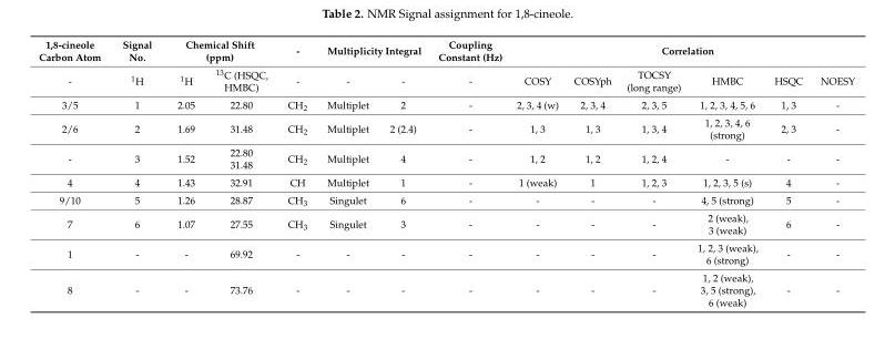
<table><thead><tr><td rowspan="2">1,8-cineole Carbon Atom -</td><td rowspan="2">Signal No. <sup>1</sup>H</td><td colspan="2">Chemical Shift (ppm)</td><td rowspan="2">- -</td><td rowspan="2">Multiplicity -</td><td rowspan="2">Integral -</td><td rowspan="2">Coupling Constant (Hz) -</td><td colspan="6">Correlation</td></tr><tr><td><sup>1</sup>H</td><td><sup>13</sup>C (HSQC, HMBC)</td><td>COSY</td><td>COSYph</td><td>TOCSY (long range)</td><td>HMBC</td><td>HSQC</td><td>NOESY</td></tr></thead><tbody><tr><td>3/5</td><td>1</td><td>2.05</td><td>22.80</td><td>CH<sub>2</sub></td><td>Multiplet</td><td>2</td><td>-</td><td>2, 3, 4 (w)</td><td>2, 3, 4</td><td>2, 3, 5</td><td>1, 2, 3, 4, 5, 6</td><td>1, 3</td><td>-</td></tr><tr><td>2/6</td><td>2</td><td>1.69</td><td>31.48</td><td>CH<sub>2</sub></td><td>Multiplet</td><td>2 (2.4)</td><td>-</td><td>1, 3</td><td>1, 3</td><td>1, 3, 4</td><td>1, 2, 3, 4, 6 (strong)</td><td>2, 3</td><td>-</td></tr><tr><td>-</td><td>3</td><td>1.52</td><td>22.80 31.48</td><td>CH<sub>2</sub></td><td>Multiplet</td><td>4</td><td>-</td><td>1, 2</td><td>1, 2</td><td>1, 2, 4</td><td>-</td><td>-</td><td>-</td></tr><tr><td>4</td><td>4</td><td>1.43</td><td>32.91</td><td>CH</td><td>Multiplet</td><td>1</td><td>-</td><td>1 (weak)</td><td>1</td><td>1, 2, 3</td><td>1, 2, 3, 5 (s)</td><td>4</td><td>-</td></tr><tr><td>9/10</td><td>5</td><td>1.26</td><td>28.87</td><td>CH<sub>3</sub></td><td>Singulet</td><td>6</td><td>-</td><td>-</td><td>-</td><td>-</td><td>4, 5 (strong)</td><td>5</td><td>-</td></tr><tr><td>7</td><td>6</td><td>1.07</td><td>27.55</td><td>CH<sub>3</sub></td><td>Singulet</td><td>3</td><td>-</td><td>-</td><td>-</td><td>-</td><td>2 (weak), 3 (weak)</td><td>6</td><td>-</td></tr><tr><td>1</td><td>-</td><td>-</td><td>69.92</td><td>-</td><td>-</td><td>-</td><td>-</td><td>-</td><td>-</td><td>-</td><td>1, 2, 3 (weak), 6 (strong)</td><td>-</td><td>-</td></tr><tr><td>8</td><td>-</td><td>-</td><td>73.76</td><td>-</td><td>-</td><td>-</td><td>-</td><td>-</td><td>-</td><td>-</td><td>1, 2 (weak), 3, 5 (strong), 6 (weak)</td><td>-</td><td>-</td></tr></tbody></table>